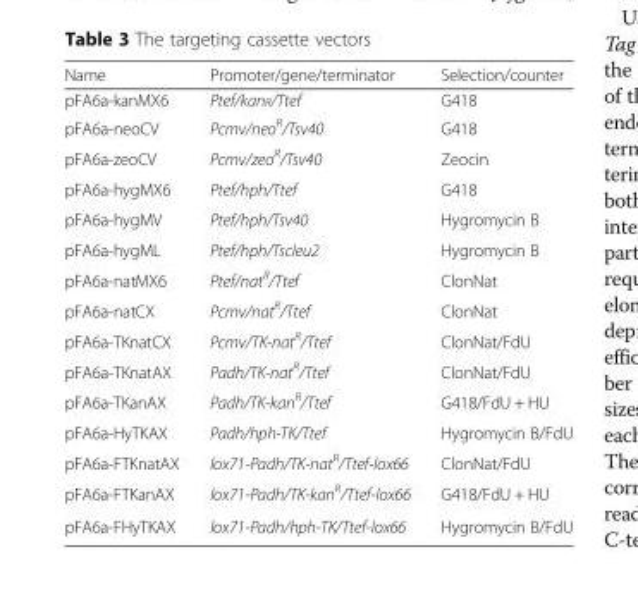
<table><thead><tr><td>Name</td><td>Promoter/gene/terminator</td><td>Selection/counter</td></tr></thead><tbody><tr><td>pFA6a-kanMX6</td><td>Ptef/kan<sup>R</sup>/Ttef</td><td>G418</td></tr><tr><td>pFA6a-neoCV</td><td>Pcmv/neo<sup>R</sup>/Tsv40</td><td>G418</td></tr><tr><td>pFA6a-zeoCV</td><td>Pcmv/zeo<sup>R</sup>/Tsv40</td><td>Zeocin</td></tr><tr><td>pFA6a-hygMX6</td><td>Ptef/hph/Ttef</td><td>G418</td></tr><tr><td>pFA6a-hygMV</td><td>Ptef/hph/Tsv40</td><td>Hygromycin B</td></tr><tr><td>pFA6a-hygML</td><td>Ptef/hph/Tscleu2</td><td>Hygromycin B</td></tr><tr><td>pFA6a-natMX6</td><td>Ptef/nat<sup>R</sup>/Ttef</td><td>ClonNat</td></tr><tr><td>pFA6a-natCX</td><td>Pcmv/nat<sup>R</sup>/Ttef</td><td>ClonNat</td></tr><tr><td>pFA6a-TKnatCX</td><td>Pcmv/TK-nat<sup>R</sup>/Ttef</td><td>ClonNat/FdU</td></tr><tr><td>pFA6a-TKnatAX</td><td>Padh/TK-nat<sup>R</sup>/Ttef</td><td>ClonNat/FdU</td></tr><tr><td>pFA6a-TKanAX</td><td>Padh/TK-kan<sup>R</sup>/Ttef</td><td>G418/FdU + HU</td></tr><tr><td>pFA6a-HyTKAX</td><td>Padh/hph-TK/Ttef</td><td>Hygromycin B/FdU</td></tr><tr><td>pFA6a-FTKnatAX</td><td>lox71-Padh/TK-nat<sup>R</sup>/Ttef-lox66</td><td>ClonNat/FdU</td></tr><tr><td>pFA6a-FTKanAX</td><td>lox71-Padh/TK-kan<sup>R</sup>/Ttef-lox66</td><td>G418/FdU + HU</td></tr><tr><td>pFA6a-FHyTKAX</td><td>lox71-Padh/hph-TK/Ttef-lox66</td><td>Hygromycin B/FdU</td></tr></tbody></table>